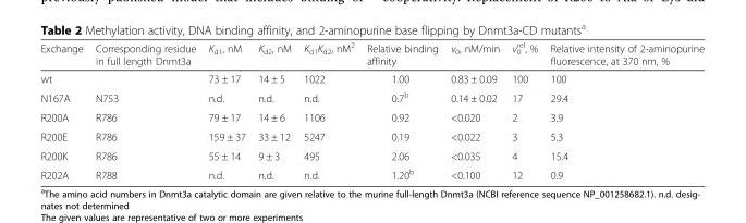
<table><thead><tr><td>Exchange</td><td>Corresponding residue in full length Dnmt3a</td><td>K<sub>d1</sub>, nM</td><td>K<sub>d2</sub>, nM</td><td>K<sub>d1</sub>K<sub>d2</sub>, nM<sup>2</sup></td><td>Relative binding affinity</td><td>v<sub>0</sub>, nM/min</td><td>v<sub>0</sub> <sup>rel</sup>, %</td><td>Relative intensity of 2-aminopurine fluorescence, at 370 nm, %</td></tr></thead><tbody><tr><td>wt</td><td></td><td>73 ± 17</td><td>14 ± 5</td><td>1022</td><td>1.00</td><td>0.83 ± 0.09</td><td>100</td><td>100</td></tr><tr><td>N167A</td><td>N753</td><td>n.d.</td><td>n.d.</td><td>n.d.</td><td>0.7<sup>b</sup></td><td>0.14 ± 0.02</td><td>17</td><td>29.4</td></tr><tr><td>R200A</td><td>R786</td><td>79 ± 17</td><td>14 ± 6</td><td>1106</td><td>0.92</td><td>&lt;0.020</td><td>2</td><td>3.9</td></tr><tr><td>R200E</td><td>R786</td><td>159 ± 37</td><td>33 ± 12</td><td>5247</td><td>0.19</td><td>&lt;0.022</td><td>3</td><td>5.3</td></tr><tr><td>R200K</td><td>R786</td><td>55 ± 14</td><td>9 ± 3</td><td>495</td><td>2.06</td><td>&lt;0.035</td><td>4</td><td>15.4</td></tr><tr><td>R202A</td><td>R788</td><td>n.d.</td><td>n.d.</td><td>n.d.</td><td>1.20<sup>b</sup></td><td>&lt;0.100</td><td>12</td><td>0.9</td></tr></tbody></table>